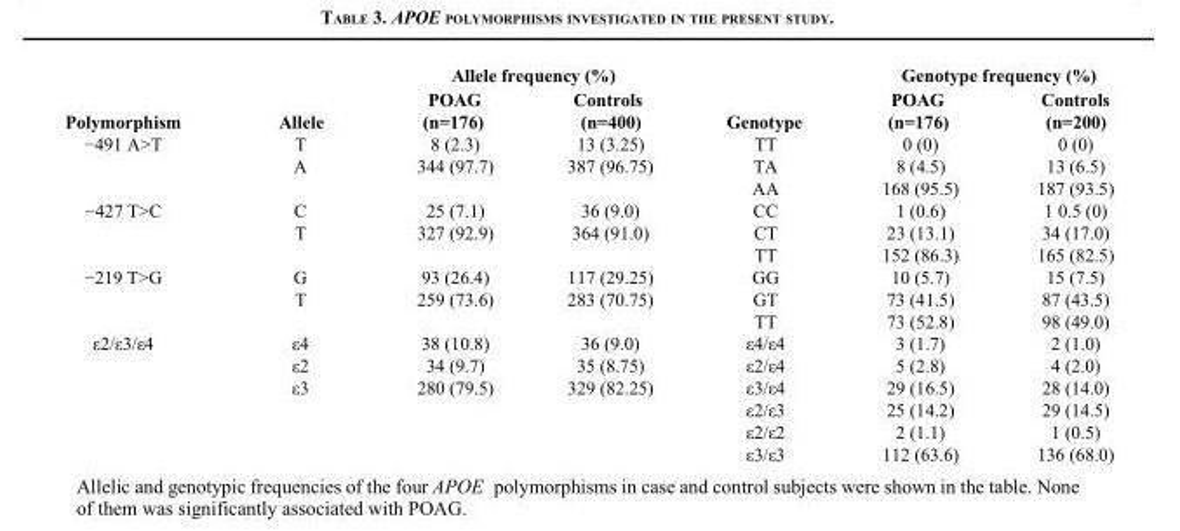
<table><thead><tr><td rowspan="2">Polymorphism</td><td colspan="3">Allele frequency (%)</td><td colspan="3">Genotype frequency (%)</td></tr><tr><td>Allele</td><td>POAG (n=176)</td><td>Controls (n=400)</td><td>Genotype</td><td>POAG (n=176)</td><td>Controls (n=200)</td></tr></thead><tbody><tr><td rowspan="3">−491 A&gt;T</td><td>T</td><td>8 (2.3)</td><td>13 (3.25)</td><td>TT</td><td>0 (0)</td><td>0 (0)</td></tr><tr><td>A</td><td>344 (97.7)</td><td>387 (96.75)</td><td>TA</td><td>8 (4.5)</td><td>13 (6.5)</td></tr><tr><td></td><td></td><td></td><td>AA</td><td>168 (95.5)</td><td>187 (93.5)</td></tr><tr><td rowspan="3">−427 T&gt;C</td><td>C</td><td>25 (7.1)</td><td>36 (9.0)</td><td>CC</td><td>1 (0.6)</td><td>1 0.5 (0)</td></tr><tr><td>T</td><td>327 (92.9)</td><td>364 (91.0)</td><td>CT</td><td>23 (13.1)</td><td>34 (17.0)</td></tr><tr><td></td><td></td><td></td><td>TT</td><td>152 (86.3)</td><td>165 (82.5)</td></tr><tr><td rowspan="3">−219 T&gt;G</td><td>G</td><td>93 (26.4)</td><td>117 (29.25)</td><td>GG</td><td>10 (5.7)</td><td>15 (7.5)</td></tr><tr><td>T</td><td>259 (73.6)</td><td>283 (70.75)</td><td>GT</td><td>73 (41.5)</td><td>87 (43.5)</td></tr><tr><td></td><td></td><td></td><td>TT</td><td>73 (52.8)</td><td>98 (49.0)</td></tr><tr><td rowspan="6">ε2/ε3/ε4</td><td>ε4</td><td>38 (10.8)</td><td>36 (9.0)</td><td>ε4/ε4</td><td>3 (1.7)</td><td>2 (1.0)</td></tr><tr><td>ε2</td><td>34 (9.7)</td><td>35 (8.75)</td><td>ε2/ε4</td><td>5 (2.8)</td><td>4 (2.0)</td></tr><tr><td>ε3</td><td>280 (79.5)</td><td>329 (82.25)</td><td>ε3/ε4</td><td>29 (16.5)</td><td>28 (14.0)</td></tr><tr><td></td><td></td><td></td><td>ε2/ε3</td><td>25 (14.2)</td><td>29 (14.5)</td></tr><tr><td></td><td></td><td></td><td>ε2/ε2</td><td>2 (1.1)</td><td>1 (0.5)</td></tr><tr><td></td><td></td><td></td><td>ε3/ε3</td><td>112 (63.6)</td><td>136 (68.0)</td></tr></tbody></table>